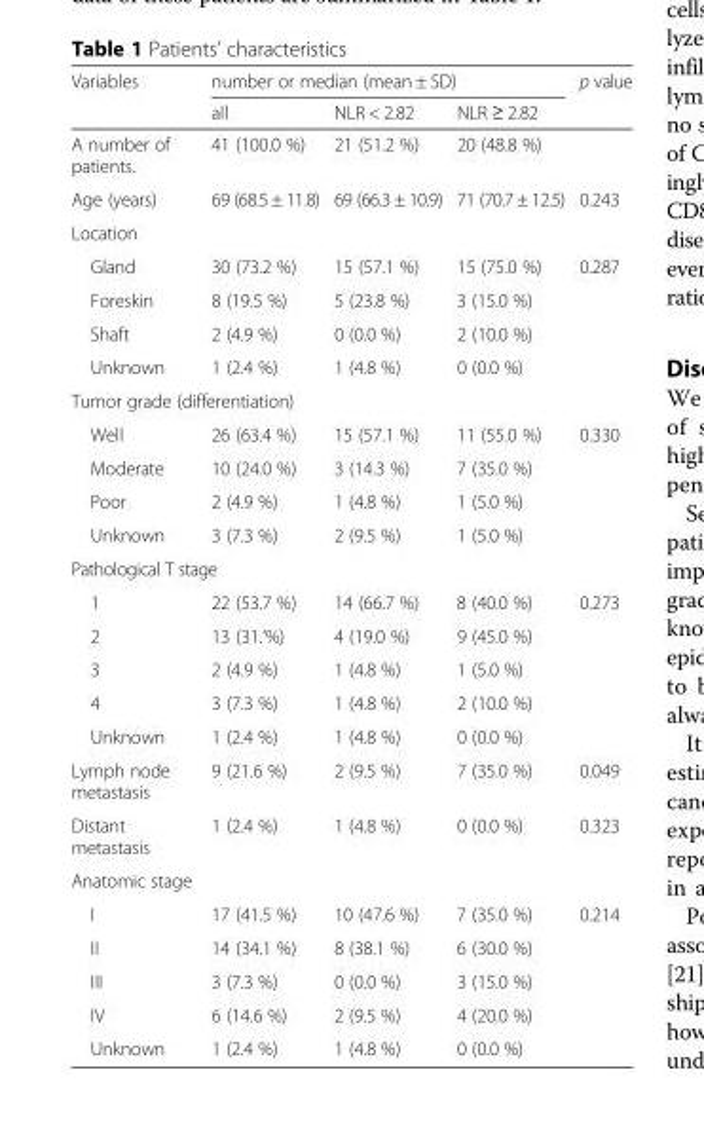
<table><thead><tr><td rowspan="2">Variables</td><td colspan="3">number or median (mean ± SD)</td><td rowspan="2">p value</td></tr><tr><td>all</td><td>NLR &lt; 2.82</td><td>NLR ≥ 2.82</td></tr></thead><tbody><tr><td>A number of patients.</td><td>41 (100.0 %)</td><td>21 (51.2 %)</td><td>20 (48.8 %)</td><td></td></tr><tr><td>Age (years)</td><td>69 (68.5 ± 11.8)</td><td>69 (66.3 ± 10.9)</td><td>71 (70.7 ± 12.5)</td><td>0.243</td></tr><tr><td colspan="5">Location</td></tr><tr><td>Gland</td><td>30 (73.2 %)</td><td>15 (57.1 %)</td><td>15 (75.0 %)</td><td rowspan="4">0.287</td></tr><tr><td>Foreskin</td><td>8 (19.5 %)</td><td>5 (23.8 %)</td><td>3 (15.0 %)</td></tr><tr><td>Shaft</td><td>2 (4.9 %)</td><td>0 (0.0 %)</td><td>2 (10.0 %)</td></tr><tr><td>Unknown</td><td>1 (2.4 %)</td><td>1 (4.8 %)</td><td>0 (0.0 %)</td></tr><tr><td colspan="5">Tumor grade (differentiation)</td></tr><tr><td>Well</td><td>26 (63.4 %)</td><td>15 (57.1 %)</td><td>11 (55.0 %)</td><td rowspan="4">0.330</td></tr><tr><td>Moderate</td><td>10 (24.0 %)</td><td>3 (14.3 %)</td><td>7 (35.0 %)</td></tr><tr><td>Poor</td><td>2 (4.9 %)</td><td>1 (4.8 %)</td><td>1 (5.0 %)</td></tr><tr><td>Unknown</td><td>3 (7.3 %)</td><td>2 (9.5 %)</td><td>1 (5.0 %)</td></tr><tr><td colspan="5">Pathological T stage</td></tr><tr><td>1</td><td>22 (53.7 %)</td><td>14 (66.7 %)</td><td>8 (40.0 %)</td><td rowspan="5">0.273</td></tr><tr><td>2</td><td>13 (31.’%)</td><td>4 (19.0 %)</td><td>9 (45.0 %)</td></tr><tr><td>3</td><td>2 (4.9 %)</td><td>1 (4.8 %)</td><td>1 (5.0 %)</td></tr><tr><td>4</td><td>3 (7.3 %)</td><td>1 (4.8 %)</td><td>2 (10.0 %)</td></tr><tr><td>Unknown</td><td>1 (2.4 %)</td><td>1 (4.8 %)</td><td>0 (0.0 %)</td></tr><tr><td>Lymph node metastasis</td><td>9 (21.6 %)</td><td>2 (9.5 %)</td><td>7 (35.0 %)</td><td>0.049</td></tr><tr><td>Distant metastasis</td><td>1 (2.4 %)</td><td>1 (4.8 %)</td><td>0 (0.0 %)</td><td>0.323</td></tr><tr><td colspan="5">Anatomic stage</td></tr><tr><td>I</td><td>17 (41.5 %)</td><td>10 (47.6 %)</td><td>7 (35.0 %)</td><td rowspan="5">0.214</td></tr><tr><td>II</td><td>14 (34.1 %)</td><td>8 (38.1 %)</td><td>6 (30.0 %)</td></tr><tr><td>III</td><td>3 (7.3 %)</td><td>0 (0.0 %)</td><td>3 (15.0 %)</td></tr><tr><td>IV</td><td>6 (14.6 %)</td><td>2 (9.5 %)</td><td>4 (20.0 %)</td></tr><tr><td>Unknown</td><td>1 (2.4 %)</td><td>1 (4.8 %)</td><td>0 (0.0 %)</td></tr></tbody></table>